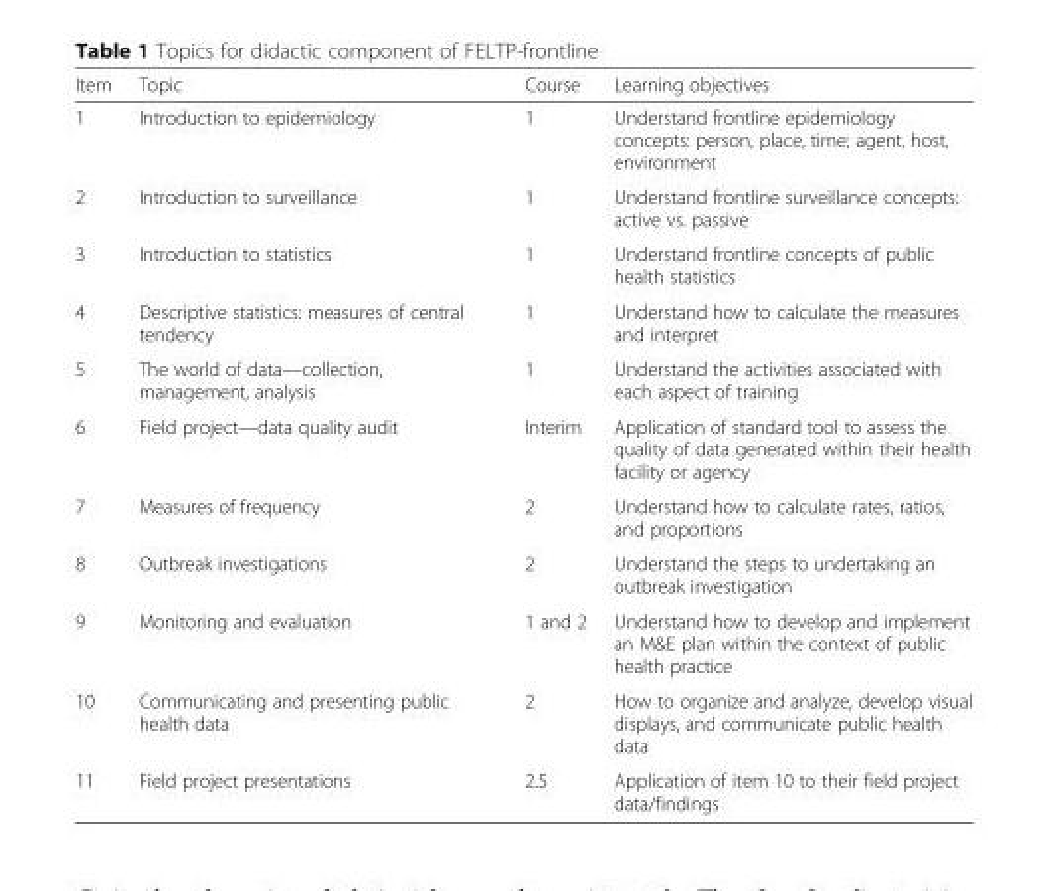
<table><thead><tr><td>Item</td><td>Topic</td><td>Course</td><td>Learning objectives</td></tr></thead><tbody><tr><td>1</td><td>Introduction to epidemiology</td><td>1</td><td>Understand frontline epidemiology concepts: person, place, time; agent, host, environment</td></tr><tr><td>2</td><td>Introduction to surveillance</td><td>1</td><td>Understand frontline surveillance concepts: active vs. passive</td></tr><tr><td>3</td><td>Introduction to statistics</td><td>1</td><td>Understand frontline concepts of public health statistics</td></tr><tr><td>4</td><td>Descriptive statistics: measures of central tendency</td><td>1</td><td>Understand how to calculate the measures and interpret</td></tr><tr><td>5</td><td>The world of data—collection, management, analysis</td><td>1</td><td>Understand the activities associated with each aspect of training</td></tr><tr><td>6</td><td>Field project—data quality audit</td><td>Interim</td><td>Application of standard tool to assess the quality of data generated within their health facility or agency</td></tr><tr><td>7</td><td>Measures of frequency</td><td>2</td><td>Understand how to calculate rates, ratios, and proportions</td></tr><tr><td>8</td><td>Outbreak investigations</td><td>2</td><td>Understand the steps to undertaking an outbreak investigation</td></tr><tr><td>9</td><td>Monitoring and evaluation</td><td>1 and 2</td><td>Understand how to develop and implement an M&amp;E plan within the context of public health practice</td></tr><tr><td>10</td><td>Communicating and presenting public health data</td><td>2</td><td>How to organize and analyze, develop visual displays, and communicate public health data</td></tr><tr><td>11</td><td>Field project presentations</td><td>2.5</td><td>Application of item 10 to their field project data/findings</td></tr></tbody></table>